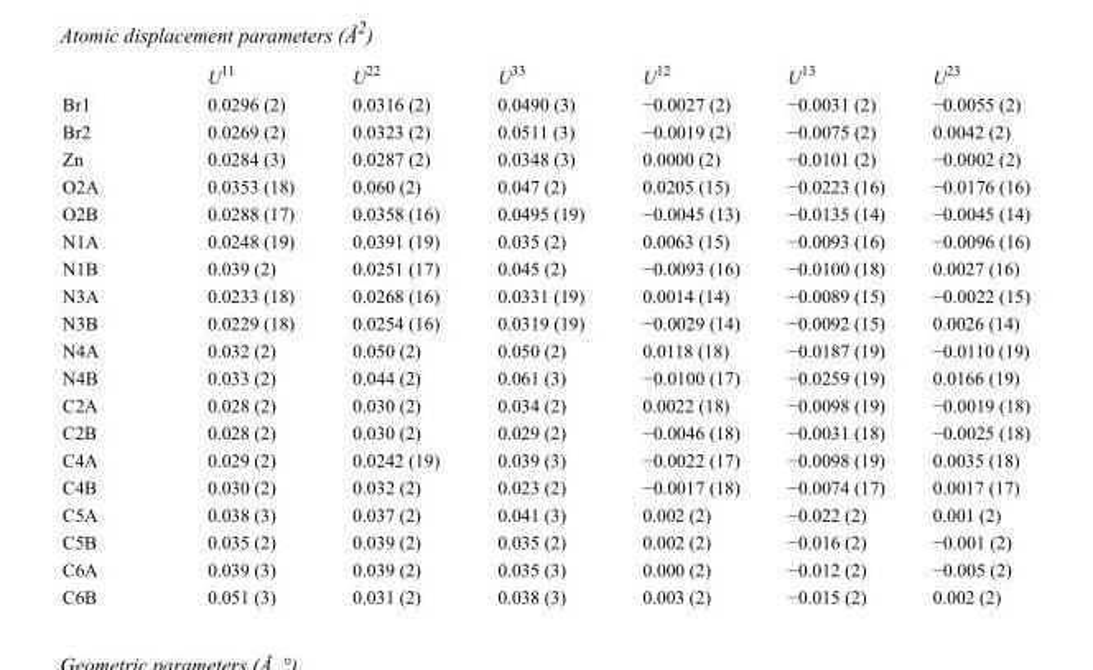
<table><thead><tr><td></td><td>U<sup>11</sup></td><td>U<sup>22</sup></td><td>U<sup>33</sup></td><td>U<sup>12</sup></td><td>U<sup>13</sup></td><td>U<sup>23</sup></td></tr></thead><tbody><tr><td>Br1</td><td>0.0296 (2)</td><td>0.0316 (2)</td><td>0.0490 (3)</td><td>−0.0027 (2)</td><td>−0.0031 (2)</td><td>−0.0055 (2)</td></tr><tr><td>Br2</td><td>0.0269 (2)</td><td>0.0323 (2)</td><td>0.0511 (3)</td><td>−0.0019 (2)</td><td>−0.0075 (2)</td><td>0.0042 (2)</td></tr><tr><td>Zn</td><td>0.0284 (3)</td><td>0.0287 (2)</td><td>0.0348 (3)</td><td>0.0000 (2)</td><td>−0.0101 (2)</td><td>−0.0002 (2)</td></tr><tr><td>O2A</td><td>0.0353 (18)</td><td>0.060 (2)</td><td>0.047 (2)</td><td>0.0205 (15)</td><td>−0.0223 (16)</td><td>−0.0176 (16)</td></tr><tr><td>O2B</td><td>0.0288 (17)</td><td>0.0358 (16)</td><td>0.0495 (19)</td><td>−0.0045 (13)</td><td>−0.0135 (14)</td><td>−0.0045 (14)</td></tr><tr><td>N1A</td><td>0.0248 (19)</td><td>0.0391 (19)</td><td>0.035 (2)</td><td>0.0063 (15)</td><td>−0.0093 (16)</td><td>−0.0096 (16)</td></tr><tr><td>N1B</td><td>0.039 (2)</td><td>0.0251 (17)</td><td>0.045 (2)</td><td>−0.0093 (16)</td><td>−0.0100 (18)</td><td>0.0027 (16)</td></tr><tr><td>N3A</td><td>0.0233 (18)</td><td>0.0268 (16)</td><td>0.0331 (19)</td><td>0.0014 (14)</td><td>−0.0089 (15)</td><td>−0.0022 (15)</td></tr><tr><td>N3B</td><td>0.0229 (18)</td><td>0.0254 (16)</td><td>0.0319 (19)</td><td>−0.0029 (14)</td><td>−0.0092 (15)</td><td>0.0026 (14)</td></tr><tr><td>N4A</td><td>0.032 (2)</td><td>0.050 (2)</td><td>0.050 (2)</td><td>0.0118 (18)</td><td>−0.0187 (19)</td><td>−0.0110 (19)</td></tr><tr><td>N4B</td><td>0.033 (2)</td><td>0.044 (2)</td><td>0.061 (3)</td><td>−0.0100 (17)</td><td>−0.0259 (19)</td><td>0.0166 (19)</td></tr><tr><td>C2A</td><td>0.028 (2)</td><td>0.030 (2)</td><td>0.034 (2)</td><td>0.0022 (18)</td><td>−0.0098 (19)</td><td>−0.0019 (18)</td></tr><tr><td>C2B</td><td>0.028 (2)</td><td>0.030 (2)</td><td>0.029 (2)</td><td>−0.0046 (18)</td><td>−0.0031 (18)</td><td>−0.0025 (18)</td></tr><tr><td>C4A</td><td>0.029 (2)</td><td>0.0242 (19)</td><td>0.039 (3)</td><td>−0.0022 (17)</td><td>−0.0098 (19)</td><td>0.0035 (18)</td></tr><tr><td>C4B</td><td>0.030 (2)</td><td>0.032 (2)</td><td>0.023 (2)</td><td>−0.0017 (18)</td><td>−0.0074 (17)</td><td>0.0017 (17)</td></tr><tr><td>C5A</td><td>0.038 (3)</td><td>0.037 (2)</td><td>0.041 (3)</td><td>0.002 (2)</td><td>−0.022 (2)</td><td>0.001 (2)</td></tr><tr><td>C5B</td><td>0.035 (2)</td><td>0.039 (2)</td><td>0.035 (2)</td><td>0.002 (2)</td><td>−0.016 (2)</td><td>−0.001 (2)</td></tr><tr><td>C6A</td><td>0.039 (3)</td><td>0.039 (2)</td><td>0.035 (3)</td><td>0.000 (2)</td><td>−0.012 (2)</td><td>−0.005 (2)</td></tr><tr><td>C6B</td><td>0.051 (3)</td><td>0.031 (2)</td><td>0.038 (3)</td><td>0.003 (2)</td><td>−0.015 (2)</td><td>0.002 (2)</td></tr></tbody></table>